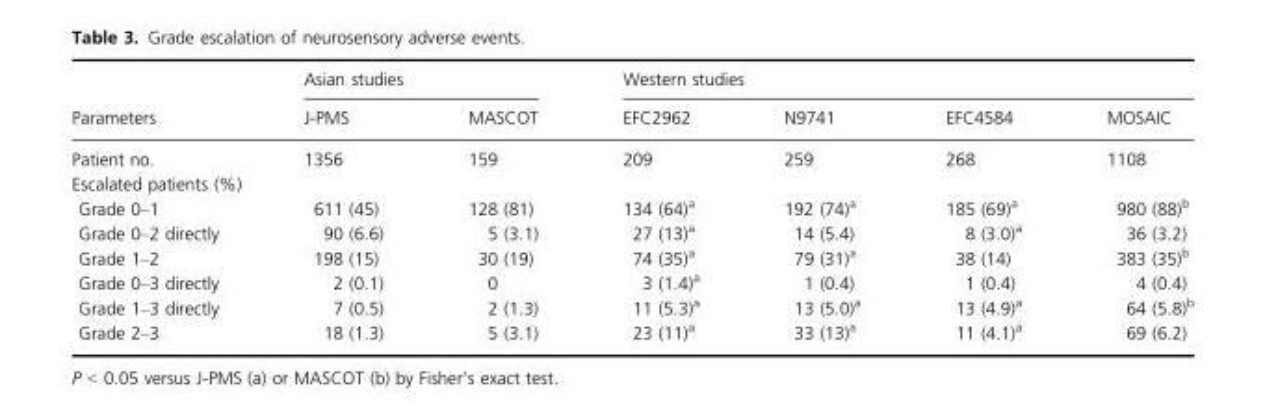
<table><thead><tr><td rowspan="2">Parameters</td><td colspan="2">Asian studies</td><td colspan="4">Western studies</td></tr><tr><td>J-PMS</td><td>MASCOT</td><td>EFC2962</td><td>N9741</td><td>EFC4584</td><td>MOSAIC</td></tr></thead><tbody><tr><td>Patient no.</td><td>1356</td><td>159</td><td>209</td><td>259</td><td>268</td><td>1108</td></tr><tr><td colspan="7">Escalated patients (%)</td></tr><tr><td>Grade 0–1</td><td>611 (45)</td><td>128 (81)</td><td>134 (64)<sup>a</sup></td><td>192 (74)<sup>a</sup></td><td>185 (69)<sup>a</sup></td><td>980 (88)<sup>b</sup></td></tr><tr><td>Grade 0–2 directly</td><td>90 (6.6)</td><td>5 (3.1)</td><td>27 (13)<sup>a</sup></td><td>14 (5.4)</td><td>8 (3.0)<sup>a</sup></td><td>36 (3.2)</td></tr><tr><td>Grade 1–2</td><td>198 (15)</td><td>30 (19)</td><td>74 (35)<sup>a</sup></td><td>79 (31)<sup>a</sup></td><td>38 (14)</td><td>383 (35)<sup>b</sup></td></tr><tr><td>Grade 0–3 directly</td><td>2 (0.1)</td><td>0</td><td>3 (1.4)<sup>a</sup></td><td>1 (0.4)</td><td>1 (0.4)</td><td>4 (0.4)</td></tr><tr><td>Grade 1–3 directly</td><td>7 (0.5)</td><td>2 (1.3)</td><td>11 (5.3)<sup>a</sup></td><td>13 (5.0)<sup>a</sup></td><td>13 (4.9)<sup>a</sup></td><td>64 (5.8)<sup>b</sup></td></tr><tr><td>Grade 2–3</td><td>18 (1.3)</td><td>5 (3.1)</td><td>23 (11)<sup>a</sup></td><td>33 (13)<sup>a</sup></td><td>11 (4.1)<sup>a</sup></td><td>69 (6.2)</td></tr></tbody></table>